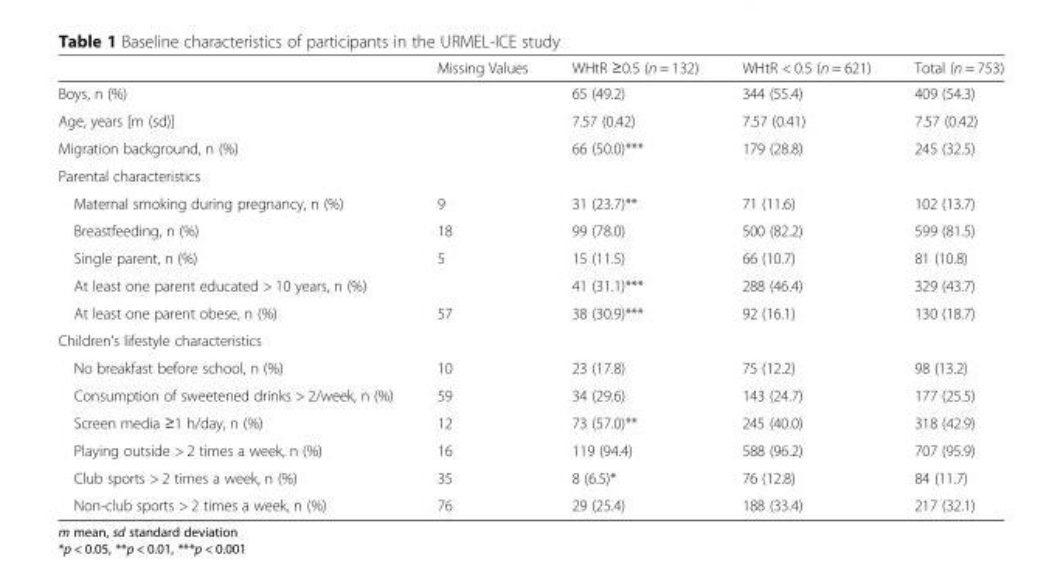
<table><thead><tr><td></td><td>Missing Values</td><td>WHtR ≥0.5 (n = 132)</td><td>WHtR &lt; 0.5 (n = 621)</td><td>Total (n = 753)</td></tr></thead><tbody><tr><td>Boys, n (%)</td><td></td><td>65 (49.2)</td><td>344 (55.4)</td><td>409 (54.3)</td></tr><tr><td>Age, years [m (sd)]</td><td></td><td>7.57 (0.42)</td><td>7.57 (0.41)</td><td>7.57 (0.42)</td></tr><tr><td>Migration background, n (%)</td><td></td><td>66 (50.0)***</td><td>179 (28.8)</td><td>245 (32.5)</td></tr><tr><td colspan="5">Parental characteristics</td></tr><tr><td>Maternal smoking during pregnancy, n (%)</td><td>9</td><td>31 (23.7)**</td><td>71 (11.6)</td><td>102 (13.7)</td></tr><tr><td>Breastfeeding, n (%)</td><td>18</td><td>99 (78.0)</td><td>500 (82.2)</td><td>599 (81.5)</td></tr><tr><td>Single parent, n (%)</td><td>5</td><td>15 (11.5)</td><td>66 (10.7)</td><td>81 (10.8)</td></tr><tr><td>At least one parent educated &gt; 10 years, n (%)</td><td></td><td>41 (31.1)***</td><td>288 (46.4)</td><td>329 (43.7)</td></tr><tr><td>At least one parent obese, n (%)</td><td>57</td><td>38 (30.9)***</td><td>92 (16.1)</td><td>130 (18.7)</td></tr><tr><td colspan="5">Children’s lifestyle characteristics</td></tr><tr><td>No breakfast before school, n (%)</td><td>10</td><td>23 (17.8)</td><td>75 (12.2)</td><td>98 (13.2)</td></tr><tr><td>Consumption of sweetened drinks &gt; 2/week, n (%)</td><td>59</td><td>34 (29.6)</td><td>143 (24.7)</td><td>177 (25.5)</td></tr><tr><td>Screen media ≥1 h/day, n (%)</td><td>12</td><td>73 (57.0)**</td><td>245 (40.0)</td><td>318 (42.9)</td></tr><tr><td>Playing outside &gt; 2 times a week, n (%)</td><td>16</td><td>119 (94.4)</td><td>588 (96.2)</td><td>707 (95.9)</td></tr><tr><td>Club sports &gt; 2 times a week, n (%)</td><td>35</td><td>8 (6.5)*</td><td>76 (12.8)</td><td>84 (11.7)</td></tr><tr><td>Non-club sports &gt; 2 times a week, n (%)</td><td>76</td><td>29 (25.4)</td><td>188 (33.4)</td><td>217 (32.1)</td></tr></tbody></table>